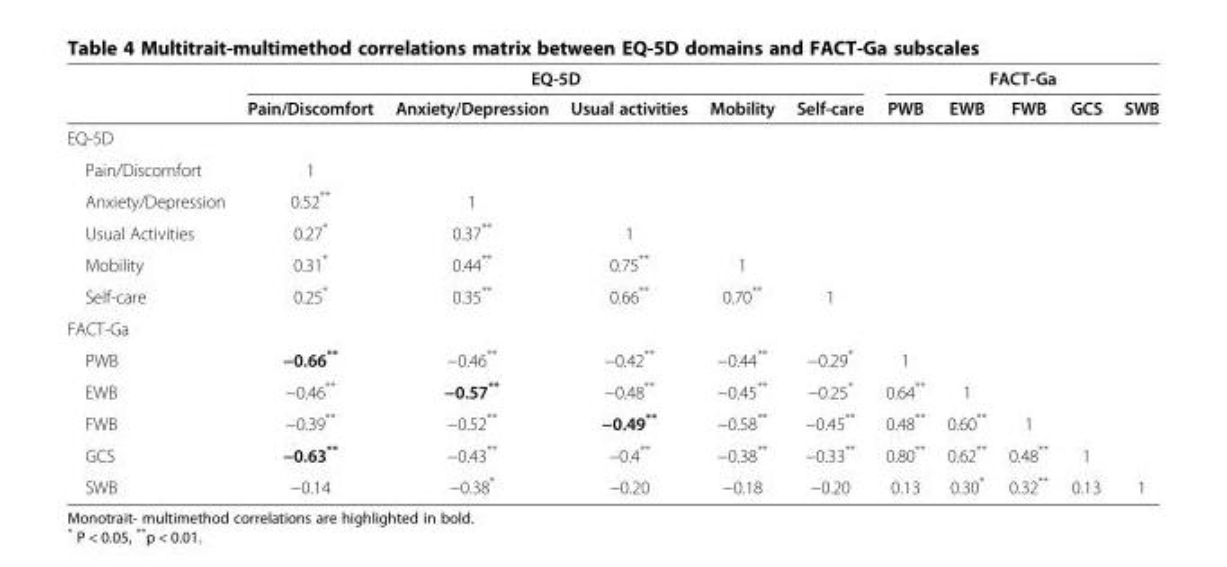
<table><thead><tr><td rowspan="2"></td><td colspan="5">EQ-5D</td><td colspan="5">FACT-Ga</td></tr><tr><td>Pain/Discomfort</td><td>Anxiety/Depression</td><td>Usual activities</td><td>Mobility</td><td>Self-care</td><td>PWB</td><td>EWB</td><td>FWB</td><td>GCS</td><td>SWB</td></tr></thead><tbody><tr><td colspan="11">EQ-5D</td></tr><tr><td>Pain/Discomfort</td><td>1</td><td></td><td></td><td></td><td></td><td></td><td></td><td></td><td></td><td></td></tr><tr><td>Anxiety/Depression</td><td>0.52**</td><td>1</td><td></td><td></td><td></td><td></td><td></td><td></td><td></td><td></td></tr><tr><td>Usual Activities</td><td>0.27*</td><td>0.37**</td><td>1</td><td></td><td></td><td></td><td></td><td></td><td></td><td></td></tr><tr><td>Mobility</td><td>0.31*</td><td>0.44**</td><td>0.75**</td><td>1</td><td></td><td></td><td></td><td></td><td></td><td></td></tr><tr><td>Self-care</td><td>0.25*</td><td>0.35**</td><td>0.66**</td><td>0.70**</td><td>1</td><td></td><td></td><td></td><td></td><td></td></tr><tr><td colspan="11">FACT-Ga</td></tr><tr><td>PWB</td><td>−0.66**</td><td>−0.46**</td><td>−0.42**</td><td>−0.44**</td><td>−0.29*</td><td>1</td><td></td><td></td><td></td><td></td></tr><tr><td>EWB</td><td>−0.46**</td><td>−0.57**</td><td>−0.48**</td><td>−0.45**</td><td>−0.25*</td><td>0.64**</td><td>1</td><td></td><td></td><td></td></tr><tr><td>FWB</td><td>−0.39**</td><td>−0.52**</td><td>−0.49**</td><td>−0.58**</td><td>−0.45**</td><td>0.48**</td><td>0.60**</td><td>1</td><td></td><td></td></tr><tr><td>GCS</td><td>−0.63**</td><td>−0.43**</td><td>−0.4**</td><td>−0.38**</td><td>−0.33**</td><td>0.80**</td><td>0.62**</td><td>0.48**</td><td>1</td><td></td></tr><tr><td>SWB</td><td>−0.14</td><td>−0.38*</td><td>−0.20</td><td>−0.18</td><td>−0.20</td><td>0.13</td><td>0.30*</td><td>0.32**</td><td>0.13</td><td>1</td></tr></tbody></table>